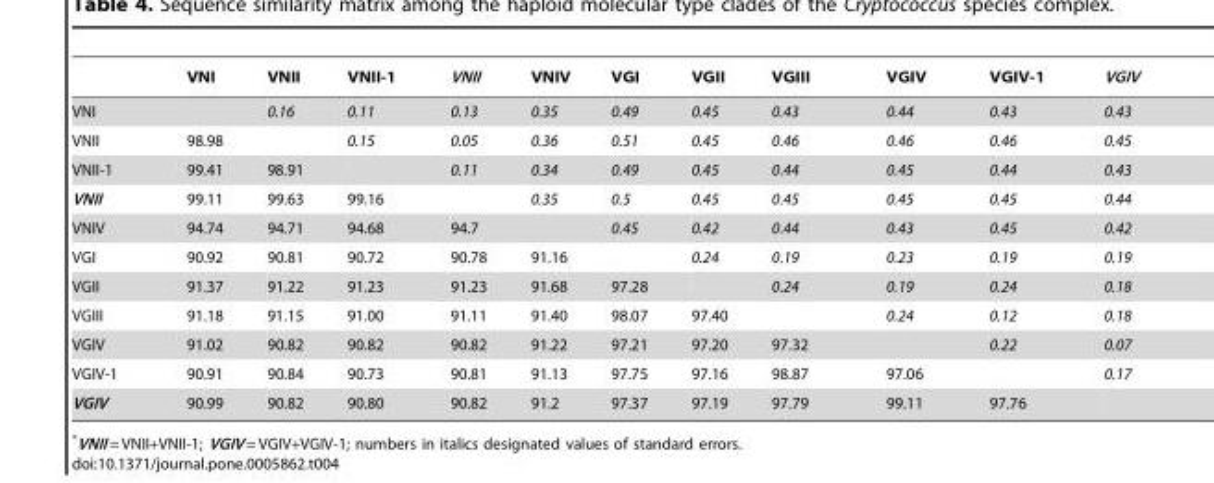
<table><thead><tr><td></td><td>VNI</td><td>VNII</td><td>VNII-1</td><td>VNII</td><td>VNIV</td><td>VGI</td><td>VGII</td><td>VGIII</td><td>VGIV</td><td>VGIV-1</td><td>VGIV</td></tr></thead><tbody><tr><td>VNI</td><td></td><td>0.16</td><td>0.11</td><td>0.13</td><td>0.35</td><td>0.49</td><td>0.45</td><td>0.43</td><td>0.44</td><td>0.43</td><td>0.43</td></tr><tr><td>VNII</td><td>98.98</td><td></td><td>0.15</td><td>0.05</td><td>0.36</td><td>0.51</td><td>0.45</td><td>0.46</td><td>0.46</td><td>0.46</td><td>0.45</td></tr><tr><td>VNII-1</td><td>99.41</td><td>98.91</td><td></td><td>0.11</td><td>0.34</td><td>0.49</td><td>0.45</td><td>0.44</td><td>0.45</td><td>0.44</td><td>0.43</td></tr><tr><td>VNII</td><td>99.11</td><td>99.63</td><td>99.16</td><td></td><td>0.35</td><td>0.5</td><td>0.45</td><td>0.45</td><td>0.45</td><td>0.45</td><td>0.44</td></tr><tr><td>VNIV</td><td>94.74</td><td>94.71</td><td>94.68</td><td>94.7</td><td></td><td>0.45</td><td>0.42</td><td>0.44</td><td>0.43</td><td>0.45</td><td>0.42</td></tr><tr><td>VGI</td><td>90.92</td><td>90.81</td><td>90.72</td><td>90.78</td><td>91.16</td><td></td><td>0.24</td><td>0.19</td><td>0.23</td><td>0.19</td><td>0.19</td></tr><tr><td>VGII</td><td>91.37</td><td>91.22</td><td>91.23</td><td>91.23</td><td>91.68</td><td>97.28</td><td></td><td>0.24</td><td>0.19</td><td>0.24</td><td>0.18</td></tr><tr><td>VGIII</td><td>91.18</td><td>91.15</td><td>91.00</td><td>91.11</td><td>91.40</td><td>98.07</td><td>97.40</td><td></td><td>0.24</td><td>0.12</td><td>0.18</td></tr><tr><td>VGIV</td><td>91.02</td><td>90.82</td><td>90.82</td><td>90.82</td><td>91.22</td><td>97.21</td><td>97.20</td><td>97.32</td><td></td><td>0.22</td><td>0.07</td></tr><tr><td>VGIV-1</td><td>90.91</td><td>90.84</td><td>90.73</td><td>90.81</td><td>91.13</td><td>97.75</td><td>97.16</td><td>98.87</td><td>97.06</td><td></td><td>0.17</td></tr><tr><td>VGIV</td><td>90.99</td><td>90.82</td><td>90.80</td><td>90.82</td><td>91.2</td><td>97.37</td><td>97.19</td><td>97.79</td><td>99.11</td><td>97.76</td><td></td></tr></tbody></table>